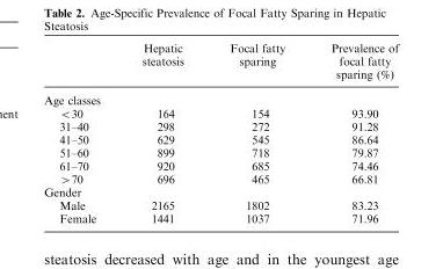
<table><thead><tr><td></td><td>Hepatic steatosis</td><td>Focal fatty sparing</td><td>Prevalence of focal fatty sparing (%)</td></tr></thead><tbody><tr><td colspan="4">Age classes</td></tr><tr><td>&lt;30</td><td>164</td><td>154</td><td>93.90</td></tr><tr><td>31–40</td><td>298</td><td>272</td><td>91.28</td></tr><tr><td>41–50</td><td>629</td><td>545</td><td>86.64</td></tr><tr><td>51–60</td><td>899</td><td>718</td><td>79.87</td></tr><tr><td>61–70</td><td>920</td><td>685</td><td>74.46</td></tr><tr><td>&gt;70</td><td>696</td><td>465</td><td>66.81</td></tr><tr><td colspan="4">Gender</td></tr><tr><td>Male</td><td>2165</td><td>1802</td><td>83.23</td></tr><tr><td>Female</td><td>1441</td><td>1037</td><td>71.96</td></tr></tbody></table>